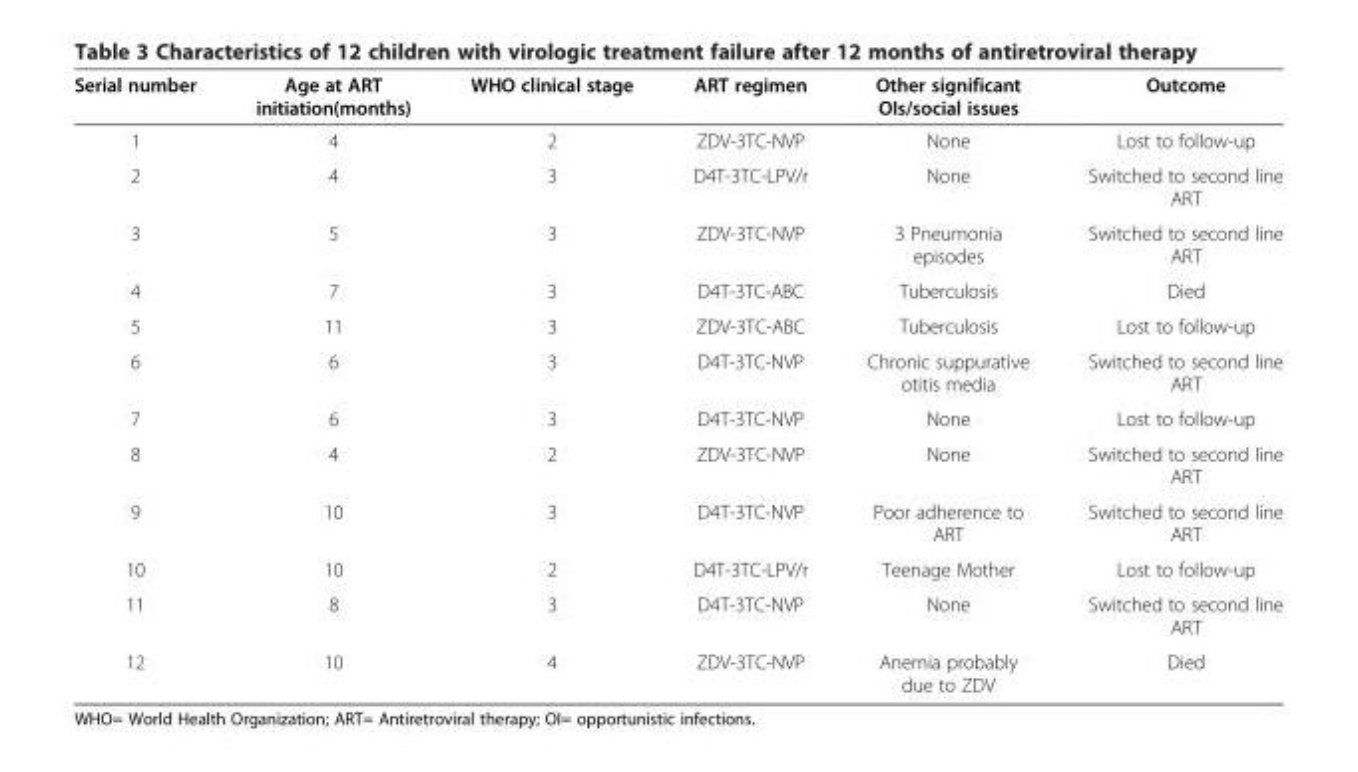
<table><thead><tr><td>Serial number</td><td>Age at ART initiation(months)</td><td>WHO clinical stage</td><td>ART regimen</td><td>Other significant OIs/social issues</td><td>Outcome</td></tr></thead><tbody><tr><td>1</td><td>4</td><td>2</td><td>ZDV-3TC-NVP</td><td>None</td><td>Lost to follow-up</td></tr><tr><td>2</td><td>4</td><td>3</td><td>D4T-3TC-LPV/r</td><td>None</td><td>Switched to second line ART</td></tr><tr><td>3</td><td>5</td><td>3</td><td>ZDV-3TC-NVP</td><td>3 Pneumonia episodes</td><td>Switched to second line ART</td></tr><tr><td>4</td><td>7</td><td>3</td><td>D4T-3TC-ABC</td><td>Tuberculosis</td><td>Died</td></tr><tr><td>5</td><td>11</td><td>3</td><td>ZDV-3TC-ABC</td><td>Tuberculosis</td><td>Lost to follow-up</td></tr><tr><td>6</td><td>6</td><td>3</td><td>D4T-3TC-NVP</td><td>Chronic suppurative otitis media</td><td>Switched to second line ART</td></tr><tr><td>7</td><td>6</td><td>3</td><td>D4T-3TC-NVP</td><td>None</td><td>Lost to follow-up</td></tr><tr><td>8</td><td>4</td><td>2</td><td>ZDV-3TC-NVP</td><td>None</td><td>Switched to second line ART</td></tr><tr><td>9</td><td>10</td><td>3</td><td>D4T-3TC-NVP</td><td>Poor adherence to ART</td><td>Switched to second line ART</td></tr><tr><td>10</td><td>10</td><td>2</td><td>D4T-3TC-LPV/r</td><td>Teenage Mother</td><td>Lost to follow-up</td></tr><tr><td>11</td><td>8</td><td>3</td><td>D4T-3TC-NVP</td><td>None</td><td>Switched to second line ART</td></tr><tr><td>12</td><td>10</td><td>4</td><td>ZDV-3TC-NVP</td><td>Anemia probably due to ZDV</td><td>Died</td></tr></tbody></table>